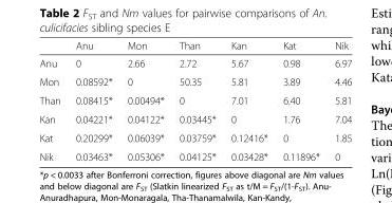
<table><thead><tr><td></td><td>Anu</td><td>Mon</td><td>Than</td><td>Kan</td><td>Kat</td><td>Nik</td></tr></thead><tbody><tr><td>Anu</td><td>0</td><td>2.66</td><td>2.72</td><td>5.67</td><td>0.98</td><td>6.97</td></tr><tr><td>Mon</td><td>0.08592*</td><td>0</td><td>50.35</td><td>5.81</td><td>3.89</td><td>4.46</td></tr><tr><td>Than</td><td>0.08415*</td><td>0.00494*</td><td>0</td><td>7.01</td><td>6.40</td><td>5.81</td></tr><tr><td>Kan</td><td>0.04221*</td><td>0.04122*</td><td>0.03445*</td><td>0</td><td>1.76</td><td>7.04</td></tr><tr><td>Kat</td><td>0.20299*</td><td>0.06039*</td><td>0.03759*</td><td>0.12416*</td><td>0</td><td>1.85</td></tr><tr><td>Nik</td><td>0.03463*</td><td>0.05306*</td><td>0.04125*</td><td>0.03428*</td><td>0.11896*</td><td>0</td></tr></tbody></table>